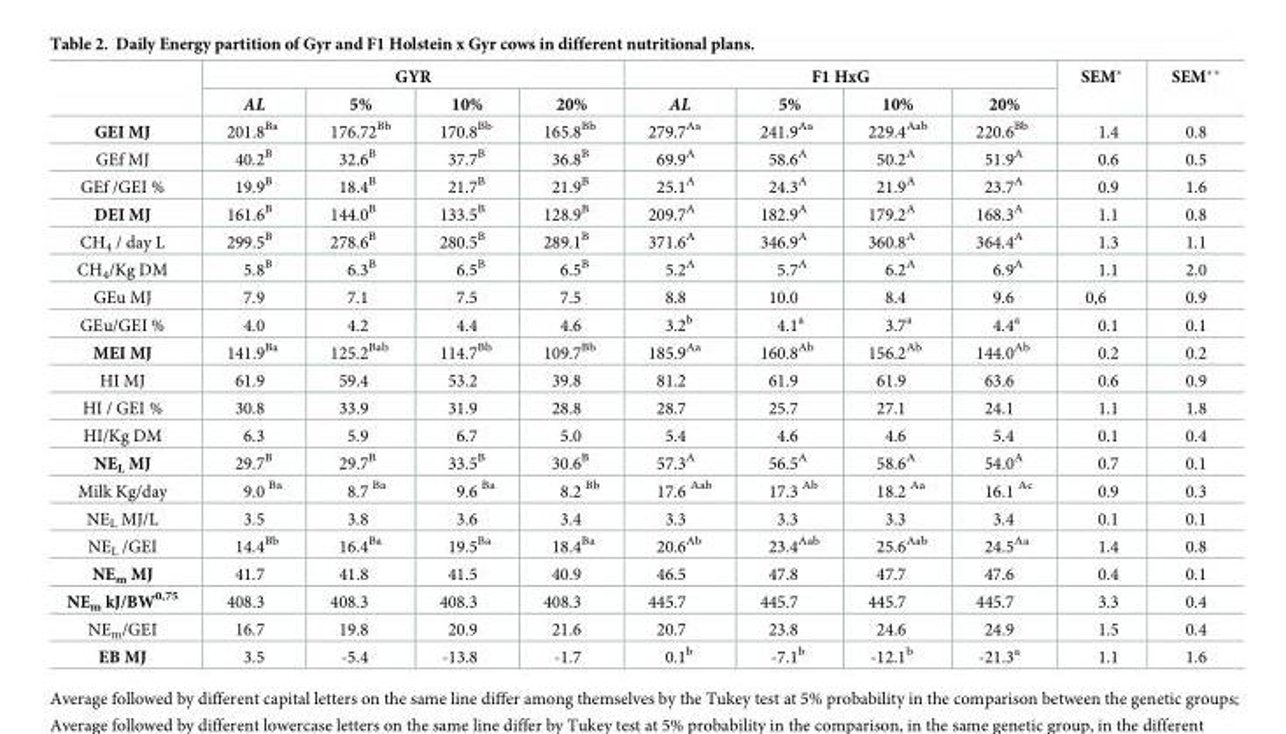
<table><thead><tr><td rowspan="2"></td><td colspan="4">GYR</td><td colspan="4">F1 HxG</td><td rowspan="2">SEM*</td><td rowspan="2">SEM**</td></tr><tr><td>AL</td><td>5%</td><td>10%</td><td>20%</td><td>AL</td><td>5%</td><td>10%</td><td>20%</td></tr></thead><tbody><tr><td>GEI MJ</td><td>201.8<sup>Ba</sup></td><td>176.72<sup>Bb</sup></td><td>170.8<sup>Bb</sup></td><td>165.8<sup>Bb</sup></td><td>279.7<sup>Aa</sup></td><td>241.9<sup>Aa</sup></td><td>229.4<sup>Aab</sup></td><td>220.6<sup>Bb</sup></td><td>1.4</td><td>0.8</td></tr><tr><td>GEf MJ</td><td>40.2<sup>B</sup></td><td>32.6<sup>B</sup></td><td>37.7<sup>B</sup></td><td>36.8<sup>B</sup></td><td>69.9<sup>A</sup></td><td>58.6<sup>A</sup></td><td>50.2<sup>A</sup></td><td>51.9<sup>A</sup></td><td>0.6</td><td>0.5</td></tr><tr><td>GEf /GEI %</td><td>19.9<sup>B</sup></td><td>18.4<sup>B</sup></td><td>21.7<sup>B</sup></td><td>21.9<sup>B</sup></td><td>25.1<sup>A</sup></td><td>24.3<sup>A</sup></td><td>21.9<sup>A</sup></td><td>23.7<sup>A</sup></td><td>0.9</td><td>1.6</td></tr><tr><td>DEI MJ</td><td>161.6<sup>B</sup></td><td>144.0<sup>B</sup></td><td>133.5<sup>B</sup></td><td>128.9<sup>B</sup></td><td>209.7<sup>A</sup></td><td>182.9<sup>A</sup></td><td>179.2<sup>A</sup></td><td>168.3<sup>A</sup></td><td>1.1</td><td>0.8</td></tr><tr><td>CH<sub>4</sub> / day L</td><td>299.5<sup>B</sup></td><td>278.6<sup>B</sup></td><td>280.5<sup>B</sup></td><td>289.1<sup>B</sup></td><td>371.6<sup>A</sup></td><td>346.9<sup>A</sup></td><td>360.8<sup>A</sup></td><td>364.4<sup>A</sup></td><td>1.3</td><td>1.1</td></tr><tr><td>CH<sub>4</sub>/Kg DM</td><td>5.8<sup>B</sup></td><td>6.3<sup>B</sup></td><td>6.5<sup>B</sup></td><td>6.5<sup>B</sup></td><td>5.2<sup>A</sup></td><td>5.7<sup>A</sup></td><td>6.2<sup>A</sup></td><td>6.9<sup>A</sup></td><td>1.1</td><td>2.0</td></tr><tr><td>GEu MJ</td><td>7.9</td><td>7.1</td><td>7.5</td><td>7.5</td><td>8.8</td><td>10.0</td><td>8.4</td><td>9.6</td><td>0,6</td><td>0.9</td></tr><tr><td>GEu/GEI %</td><td>4.0</td><td>4.2</td><td>4.4</td><td>4.6</td><td>3.2<sup>b</sup></td><td>4.1<sup>a</sup></td><td>3.7<sup>a</sup></td><td>4.4<sup>a</sup></td><td>0.1</td><td>0.1</td></tr><tr><td>MEI MJ</td><td>141.9<sup>Ba</sup></td><td>125.2<sup>Bab</sup></td><td>114.7<sup>Bb</sup></td><td>109.7<sup>Bb</sup></td><td>185.9<sup>Aa</sup></td><td>160.8<sup>Ab</sup></td><td>156.2<sup>Ab</sup></td><td>144.0<sup>Ab</sup></td><td>0.2</td><td>0.2</td></tr><tr><td>HI MJ</td><td>61.9</td><td>59.4</td><td>53.2</td><td>39.8</td><td>81.2</td><td>61.9</td><td>61.9</td><td>63.6</td><td>0.6</td><td>0.9</td></tr><tr><td>HI / GEI %</td><td>30.8</td><td>33.9</td><td>31.9</td><td>28.8</td><td>28.7</td><td>25.7</td><td>27.1</td><td>24.1</td><td>1.1</td><td>1.8</td></tr><tr><td>HI/Kg DM</td><td>6.3</td><td>5.9</td><td>6.7</td><td>5.0</td><td>5.4</td><td>4.6</td><td>4.6</td><td>5.4</td><td>0.1</td><td>0.4</td></tr><tr><td>NE<sub>L</sub> MJ</td><td>29.7<sup>B</sup></td><td>29.7<sup>B</sup></td><td>33.5<sup>B</sup></td><td>30.6<sup>B</sup></td><td>57.3<sup>A</sup></td><td>56.5<sup>A</sup></td><td>58.6<sup>A</sup></td><td>54.0<sup>A</sup></td><td>0.7</td><td>0.1</td></tr><tr><td>Milk Kg/day</td><td>9.0 <sup>Ba</sup></td><td>8.7 <sup>Ba</sup></td><td>9.6 <sup>Ba</sup></td><td>8.2 <sup>Bb</sup></td><td>17.6 <sup>Aab</sup></td><td>17.3 <sup>Ab</sup></td><td>18.2 <sup>Aa</sup></td><td>16.1 <sup>Ac</sup></td><td>0.9</td><td>0.3</td></tr><tr><td>NE<sub>L</sub> MJ/L</td><td>3.5</td><td>3.8</td><td>3.6</td><td>3.4</td><td>3.3</td><td>3.3</td><td>3.3</td><td>3.4</td><td>0.1</td><td>0.1</td></tr><tr><td>NE<sub>L</sub> /GEI</td><td>14.4<sup>Bb</sup></td><td>16.4<sup>Ba</sup></td><td>19.5<sup>Ba</sup></td><td>18.4<sup>Ba</sup></td><td>20.6<sup>Ab</sup></td><td>23.4<sup>Aab</sup></td><td>25.6<sup>Aab</sup></td><td>24.5<sup>Aa</sup></td><td>1.4</td><td>0.8</td></tr><tr><td>NE<sub>m</sub> MJ</td><td>41.7</td><td>41.8</td><td>41.5</td><td>40.9</td><td>46.5</td><td>47.8</td><td>47.7</td><td>47.6</td><td>0.4</td><td>0.1</td></tr><tr><td>NE<sub>m</sub> kJ/BW<sup>0,75</sup></td><td>408.3</td><td>408.3</td><td>408.3</td><td>408.3</td><td>445.7</td><td>445.7</td><td>445.7</td><td>445.7</td><td>3.3</td><td>0.4</td></tr><tr><td>NE<sub>m</sub>/GEI</td><td>16.7</td><td>19.8</td><td>20.9</td><td>21.6</td><td>20.7</td><td>23.8</td><td>24.6</td><td>24.9</td><td>1.5</td><td>0.4</td></tr><tr><td>EB MJ</td><td>3.5</td><td>-5.4</td><td>-13.8</td><td>-1.7</td><td>0.1<sup>b</sup></td><td>-7.1<sup>b</sup></td><td>-12.1<sup>b</sup></td><td>-21.3<sup>a</sup></td><td>1.1</td><td>1.6</td></tr></tbody></table>